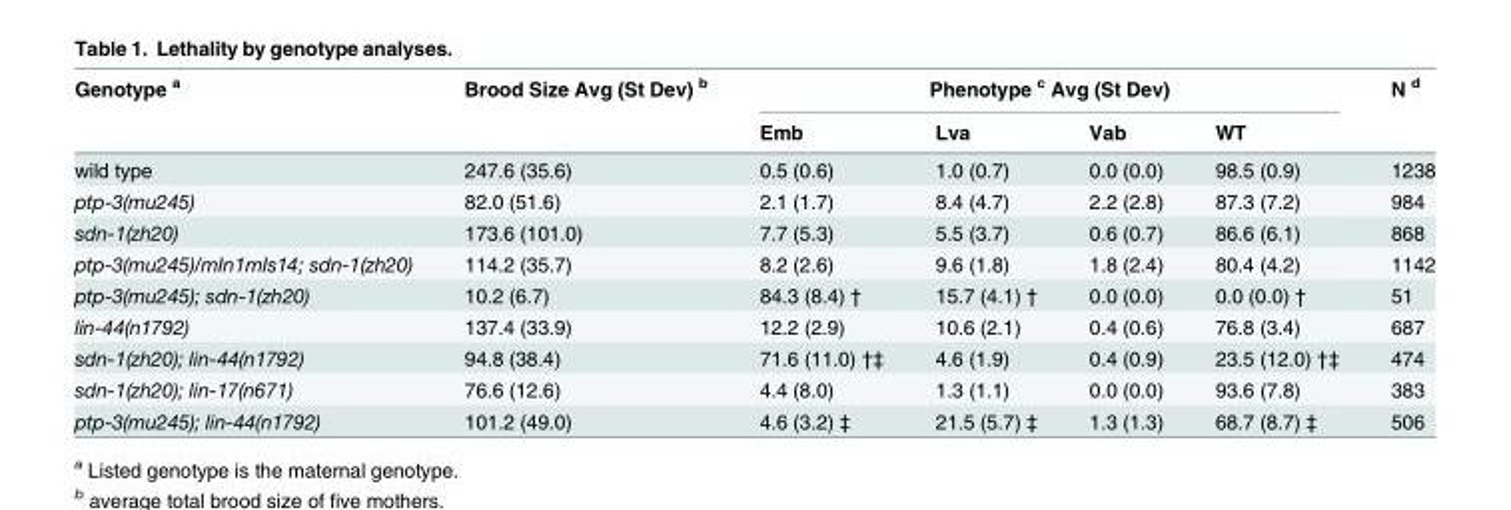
<table><thead><tr><td rowspan="2">Genotype <sup>a</sup></td><td rowspan="2">Brood Size Avg (St Dev) <sup>b</sup></td><td colspan="4">Phenotype <sup>c</sup> Avg (St Dev)</td><td rowspan="2">N <sup>d</sup></td></tr><tr><td>Emb</td><td>Lva</td><td>Vab</td><td>WT</td></tr></thead><tbody><tr><td>wild type</td><td>247.6 (35.6)</td><td>0.5 (0.6)</td><td>1.0 (0.7)</td><td>0.0 (0.0)</td><td>98.5 (0.9)</td><td>1238</td></tr><tr><td>ptp-3(mu245)</td><td>82.0 (51.6)</td><td>2.1 (1.7)</td><td>8.4 (4.7)</td><td>2.2 (2.8)</td><td>87.3 (7.2)</td><td>984</td></tr><tr><td>sdn-1(zh20)</td><td>173.6 (101.0)</td><td>7.7 (5.3)</td><td>5.5 (3.7)</td><td>0.6 (0.7)</td><td>86.6 (6.1)</td><td>868</td></tr><tr><td>ptp-3(mu245)/mIn1mIs14; sdn-1(zh20)</td><td>114.2 (35.7)</td><td>8.2 (2.6)</td><td>9.6 (1.8)</td><td>1.8 (2.4)</td><td>80.4 (4.2)</td><td>1142</td></tr><tr><td>ptp-3(mu245); sdn-1(zh20)</td><td>10.2 (6.7)</td><td>84.3 (8.4) †</td><td>15.7 (4.1) †</td><td>0.0 (0.0)</td><td>0.0 (0.0) †</td><td>51</td></tr><tr><td>lin-44(n1792)</td><td>137.4 (33.9)</td><td>12.2 (2.9)</td><td>10.6 (2.1)</td><td>0.4 (0.6)</td><td>76.8 (3.4)</td><td>687</td></tr><tr><td>sdn-1(zh20); lin-44(n1792)</td><td>94.8 (38.4)</td><td>71.6 (11.0) †‡</td><td>4.6 (1.9)</td><td>0.4 (0.9)</td><td>23.5 (12.0) †‡</td><td>474</td></tr><tr><td>sdn-1(zh20); lin-17(n671)</td><td>76.6 (12.6)</td><td>4.4 (8.0)</td><td>1.3 (1.1)</td><td>0.0 (0.0)</td><td>93.6 (7.8)</td><td>383</td></tr><tr><td>ptp-3(mu245); lin-44(n1792)</td><td>101.2 (49.0)</td><td>4.6 (3.2) ‡</td><td>21.5 (5.7) ‡</td><td>1.3 (1.3)</td><td>68.7 (8.7) ‡</td><td>506</td></tr></tbody></table>